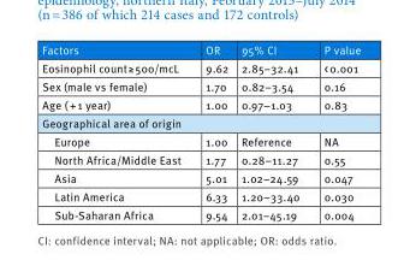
<table><thead><tr><td>Factors</td><td>OR</td><td>95% CI</td><td>P value</td></tr></thead><tbody><tr><td>Eosinophil count ≥ 500/mcL</td><td>9.62</td><td>2.85–32.41</td><td>&lt; 0.001</td></tr><tr><td>Sex (male vs female)</td><td>1.70</td><td>0.82–3.54</td><td>0.16</td></tr><tr><td>Age ( + 1 year)</td><td>1.00</td><td>0.97–1.03</td><td>0.83</td></tr><tr><td colspan="4">Geographical area of origin</td></tr><tr><td>Europe</td><td>1.00</td><td>Reference</td><td>NA</td></tr><tr><td>North Africa/Middle East</td><td>1.77</td><td>0.28–11.27</td><td>0.55</td></tr><tr><td>Asia</td><td>5.01</td><td>1.02–24.59</td><td>0.047</td></tr><tr><td>Latin America</td><td>6.33</td><td>1.20–33.40</td><td>0.030</td></tr><tr><td>Sub-Saharan Africa</td><td>9.54</td><td>2.01–45.19</td><td>0.004</td></tr></tbody></table>